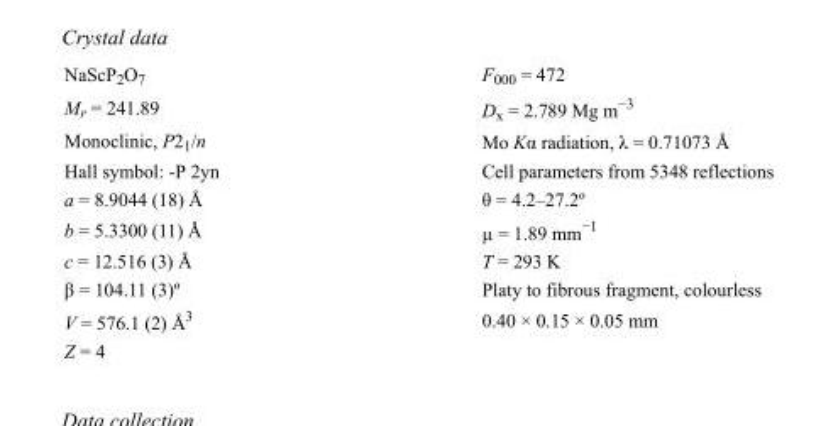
<table><tbody><tr><td>NaScP<sub>2</sub>O<sub>7</sub></td><td>F000 = 472</td></tr><tr><td>M<sub>r</sub> = 241.89</td><td>D<sub>x</sub> = 2.789 Mg m<sup>−3</sup></td></tr><tr><td>Monoclinic, P2<sub>1</sub>/n</td><td>Mo Kα radiation, λ = 0.71073 Å</td></tr><tr><td>Hall symbol: -P 2yn</td><td>Cell parameters from 5348 reflections</td></tr><tr><td>a = 8.9044 (18) Å</td><td>θ = 4.2–27.2º</td></tr><tr><td>b = 5.3300 (11) Å</td><td>µ = 1.89 mm<sup>−1</sup></td></tr><tr><td>c = 12.516 (3) Å</td><td>T = 293 K</td></tr><tr><td>β = 104.11 (3)º</td><td>Platy to fibrous fragment, colourless</td></tr><tr><td>V = 576.1 (2) Å<sup>3</sup></td><td>0.40 × 0.15 × 0.05 mm</td></tr><tr><td>Z = 4</td><td></td></tr></tbody></table>